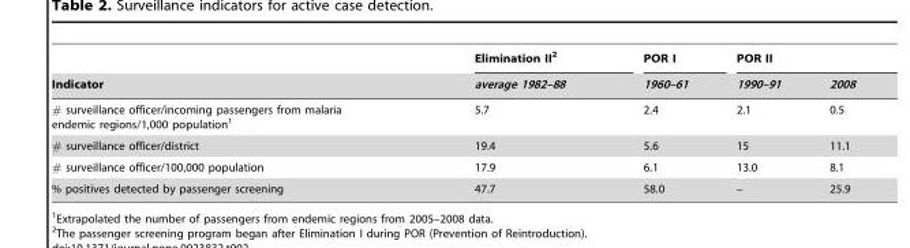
<table><thead><tr><td rowspan="2">Indicator</td><td rowspan="2">Elimination II<sup>2</sup> average 1982–88</td><td rowspan="2">POR I 1960–61</td><td colspan="2">POR II</td></tr><tr><td>1990–91</td><td>2008</td></tr></thead><tbody><tr><td># surveillance officer/incoming passengers from malaria endemic regions/1,000 population<sup>1</sup></td><td>5.7</td><td>2.4</td><td>2.1</td><td>0.5</td></tr><tr><td># surveillance officer/district</td><td>19.4</td><td>5.6</td><td>15</td><td>11.1</td></tr><tr><td># surveillance officer/100,000 population</td><td>17.9</td><td>6.1</td><td>13.0</td><td>8.1</td></tr><tr><td>% positives detected by passenger screening</td><td>47.7</td><td>58.0</td><td>–</td><td>25.9</td></tr></tbody></table>